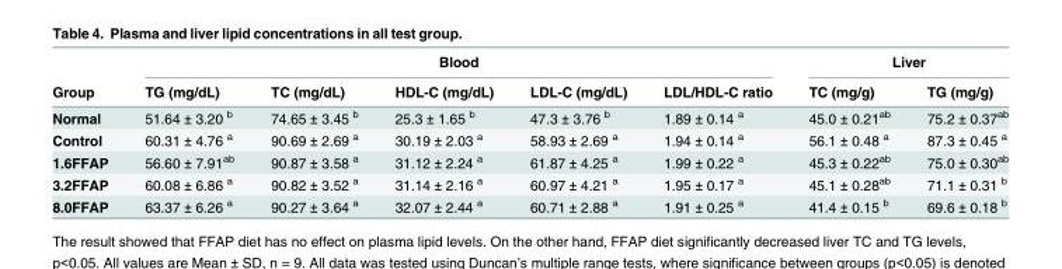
<table><thead><tr><td rowspan="2">Group</td><td colspan="5">Blood</td><td colspan="2">Liver</td></tr><tr><td>TG (mg/dL)</td><td>TC (mg/dL)</td><td>HDL-C (mg/dL)</td><td>LDL-C (mg/dL)</td><td>LDL/HDL-C ratio</td><td>TC (mg/g)</td><td>TG (mg/g)</td></tr></thead><tbody><tr><td>Normal</td><td>51.64 ± 3.20 <sup>b</sup></td><td>74.65 ± 3.45 <sup>b</sup></td><td>25.3 ± 1.65 <sup>b</sup></td><td>47.3 ± 3.76 <sup>b</sup></td><td>1.89 ± 0.14 <sup>a</sup></td><td>45.0 ± 0.21<sup>ab</sup></td><td>75.2 ± 0.37<sup>ab</sup></td></tr><tr><td>Control</td><td>60.31 ± 4.76 <sup>a</sup></td><td>90.69 ± 2.69 <sup>a</sup></td><td>30.19 ± 2.03 <sup>a</sup></td><td>58.93 ± 2.69 <sup>a</sup></td><td>1.94 ± 0.14 <sup>a</sup></td><td>56.1 ± 0.48 <sup>a</sup></td><td>87.3 ± 0.45 <sup>a</sup></td></tr><tr><td>1.6FFAP</td><td>56.60 ± 7.91<sup>ab</sup></td><td>90.87 ± 3.58 <sup>a</sup></td><td>31.12 ± 2.24 <sup>a</sup></td><td>61.87 ± 4.25 <sup>a</sup></td><td>1.99 ± 0.22 <sup>a</sup></td><td>45.3 ± 0.22<sup>ab</sup></td><td>75.0 ± 0.30<sup>ab</sup></td></tr><tr><td>3.2FFAP</td><td>60.08 ± 6.86 <sup>a</sup></td><td>90.82 ± 3.52 <sup>a</sup></td><td>31.14 ± 2.16 <sup>a</sup></td><td>60.97 ± 4.21 <sup>a</sup></td><td>1.95 ± 0.17 <sup>a</sup></td><td>45.1 ± 0.28<sup>ab</sup></td><td>71.1 ± 0.31 <sup>b</sup></td></tr><tr><td>8.0FFAP</td><td>63.37 ± 6.26 <sup>a</sup></td><td>90.27 ± 3.64 <sup>a</sup></td><td>32.07 ± 2.44 <sup>a</sup></td><td>60.71 ± 2.88 <sup>a</sup></td><td>1.91 ± 0.25 <sup>a</sup></td><td>41.4 ± 0.15 <sup>b</sup></td><td>69.6 ± 0.18 <sup>b</sup></td></tr></tbody></table>